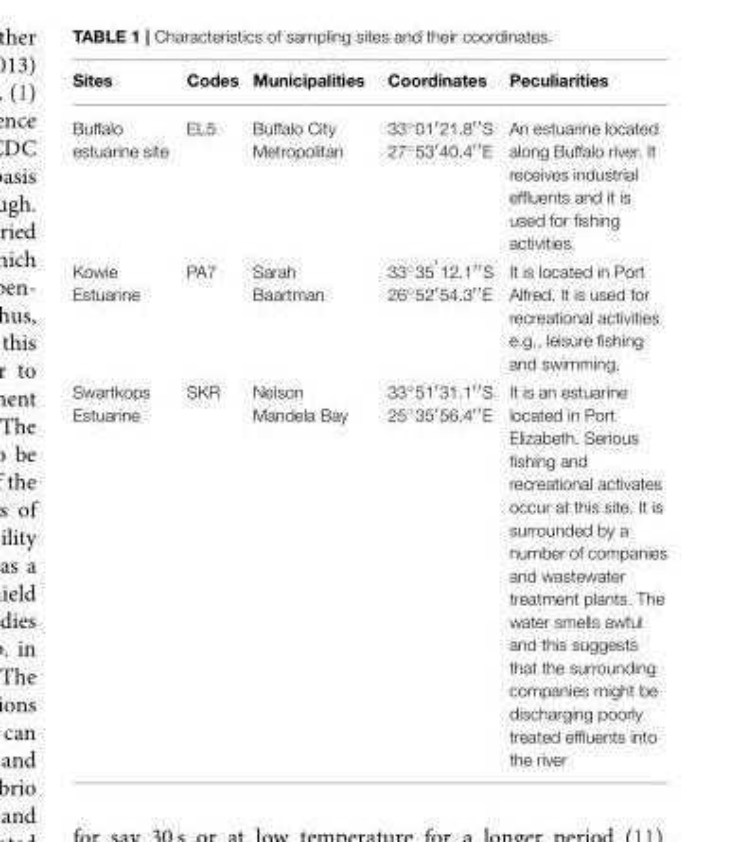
<table><thead><tr><td>Sites</td><td>Codes</td><td>Municipalities</td><td>Coordinates</td><td>Peculiarities</td></tr></thead><tbody><tr><td>Buffalo estuarine site</td><td>EL5</td><td>Buffalo City Metropolitan</td><td>33◦01′21.8′′S 27◦53′40.4′′E</td><td>An estuarine located along Buffalo river. It receives industrial effluents and it is used for fishing activities.</td></tr><tr><td>Kowie Estuarine</td><td>PA7</td><td>Sarah Baartman</td><td>33◦35 ′12.1′′S 26◦52′54.3′′E</td><td>It is located in Port Alfred. It is used for recreational activities e.g., leisure fishing and swimming.</td></tr><tr><td>Swartkops Estuarine</td><td>SKR</td><td>Nelson Mandela Bay</td><td>33◦51′31.1′′S 25◦35′56.4′′E</td><td>It is an estuarine located in Port Elizabeth. Serious fishing and recreational activates occur at this site. It is surrounded by a number of companies and wastewater treatment plants. The water smells awful and this suggests that the surrounding companies might be discharging poorly treated effluents into the river</td></tr></tbody></table>